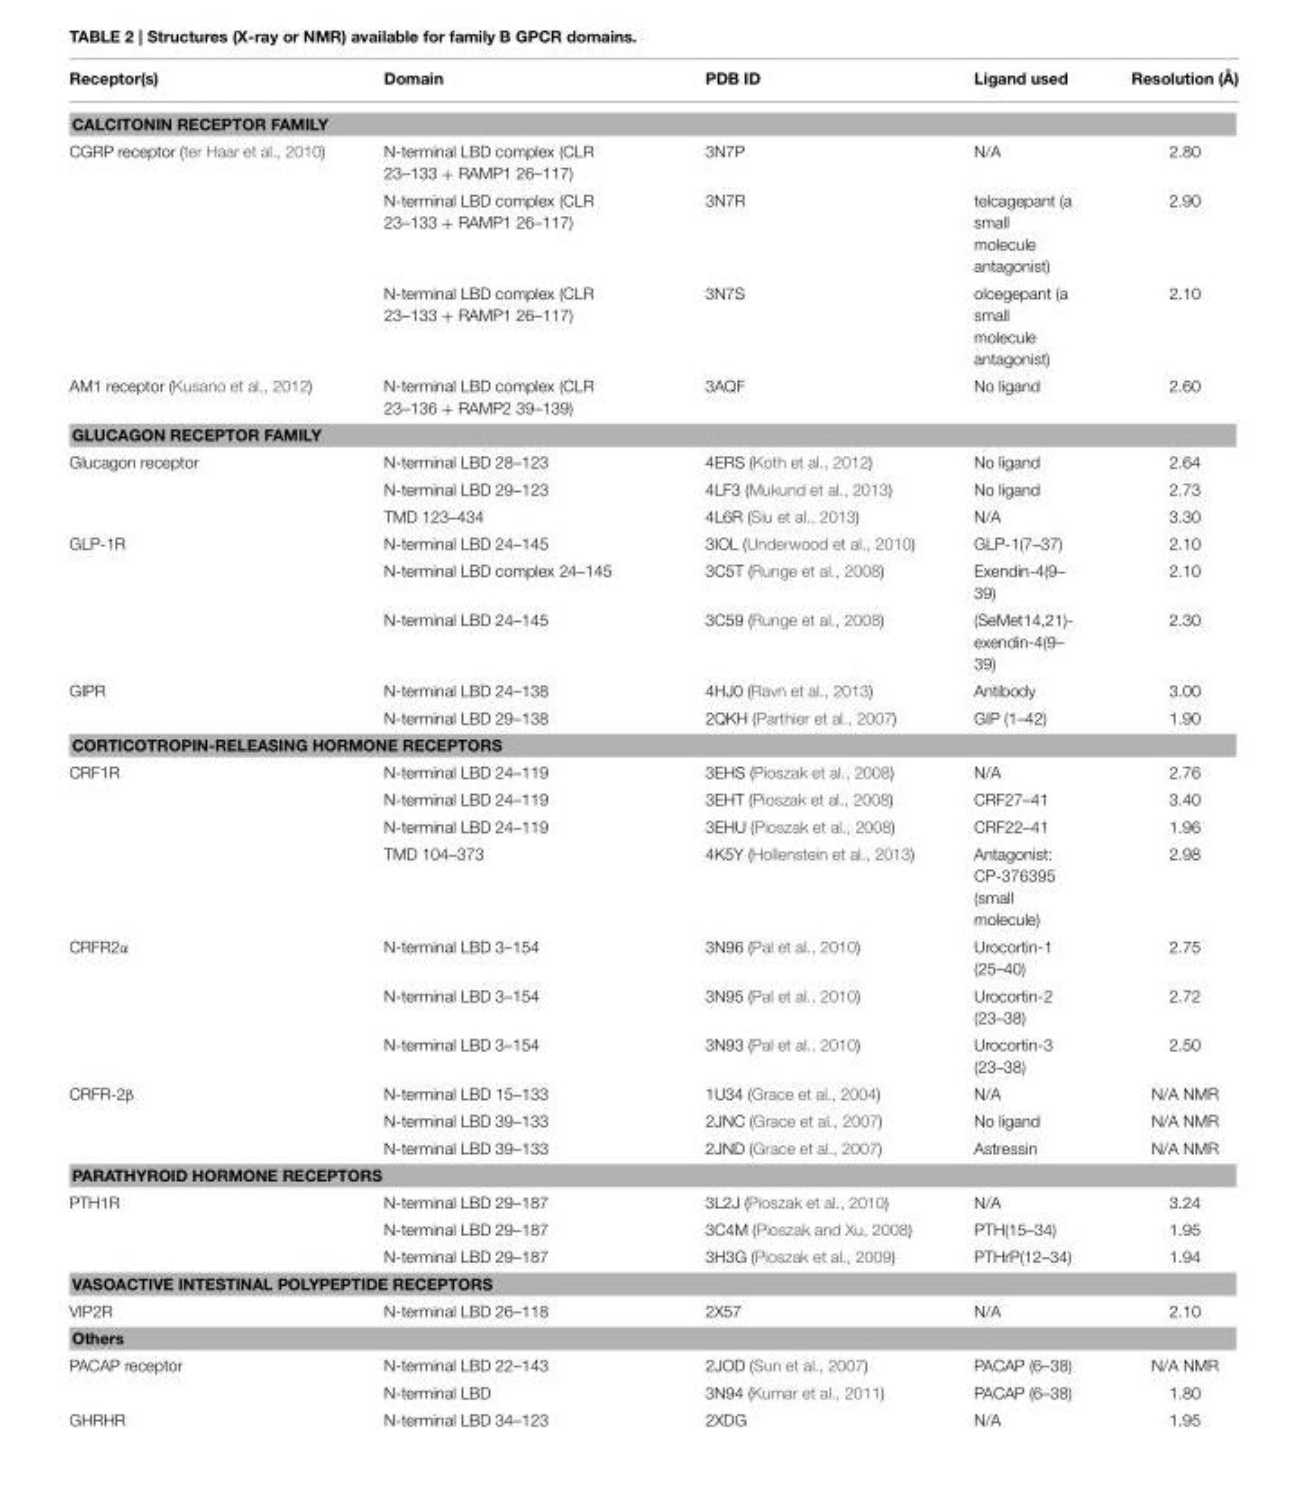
<table><thead><tr><td>Receptor(s)</td><td>Domain</td><td>PDB ID</td><td>Ligand used</td><td>Resolution (Å)</td></tr></thead><tbody><tr><td colspan="5">CALCITONIN RECEPTOR FAMILY</td></tr><tr><td rowspan="3">CGRP receptor (ter Haar et al., 2010)</td><td>N-terminal LBD complex (CLR 23–133 + RAMP1 26–117)</td><td>3N7P</td><td>N/A</td><td>2.80</td></tr><tr><td>N-terminal LBD complex (CLR 23–133 + RAMP1 26–117)</td><td>3N7R</td><td>telcagepant (a small molecule antagonist)</td><td>2.90</td></tr><tr><td>N-terminal LBD complex (CLR 23–133 + RAMP1 26–117)</td><td>3N7S</td><td>olcegepant (a small molecule antagonist)</td><td>2.10</td></tr><tr><td>AM1 receptor (Kusano et al., 2012)</td><td>N-terminal LBD complex (CLR 23–136 + RAMP2 39–139)</td><td>3AQF</td><td>No ligand</td><td>2.60</td></tr><tr><td colspan="5">GLUCAGON RECEPTOR FAMILY</td></tr><tr><td rowspan="3">Glucagon receptor</td><td>N-terminal LBD 28–123</td><td>4ERS (Koth et al., 2012)</td><td>No ligand</td><td>2.64</td></tr><tr><td>N-terminal LBD 29–123</td><td>4LF3 (Mukund et al., 2013)</td><td>No ligand</td><td>2.73</td></tr><tr><td>TMD 123–434</td><td>4L6R (Siu et al., 2013)</td><td>N/A</td><td>3.30</td></tr><tr><td rowspan="3">GLP-1R</td><td>N-terminal LBD 24–145</td><td>3IOL (Underwood et al., 2010)</td><td>GLP-1(7–37)</td><td>2.10</td></tr><tr><td>N-terminal LBD complex 24–145</td><td>3C5T (Runge et al., 2008)</td><td>Exendin-4(9– 39)</td><td>2.10</td></tr><tr><td>N-terminal LBD 24–145</td><td>3C59 (Runge et al., 2008)</td><td>(SeMet14,21)- exendin-4(9– 39)</td><td>2.30</td></tr><tr><td rowspan="2">GIPR</td><td>N-terminal LBD 24–138</td><td>4HJ0 (Ravn et al., 2013)</td><td>Antibody</td><td>3.00</td></tr><tr><td>N-terminal LBD 29–138</td><td>2QKH (Parthier et al., 2007)</td><td>GIP (1–42)</td><td>1.90</td></tr><tr><td colspan="5">CORTICOTROPIN-RELEASING HORMONE RECEPTORS</td></tr><tr><td rowspan="4">CRF1R</td><td>N-terminal LBD 24–119</td><td>3EHS (Pioszak et al., 2008)</td><td>N/A</td><td>2.76</td></tr><tr><td>N-terminal LBD 24–119</td><td>3EHT (Pioszak et al., 2008)</td><td>CRF27–41</td><td>3.40</td></tr><tr><td>N-terminal LBD 24–119</td><td>3EHU (Pioszak et al., 2008)</td><td>CRF22–41</td><td>1.96</td></tr><tr><td>TMD 104–373</td><td>4K5Y (Hollenstein et al., 2013)</td><td>Antagonist: CP-376395 (small molecule)</td><td>2.98</td></tr><tr><td rowspan="3">CRFR2α</td><td>N-terminal LBD 3–154</td><td>3N96 (Pal et al., 2010)</td><td>Urocortin-1 (25–40)</td><td>2.75</td></tr><tr><td>N-terminal LBD 3–154</td><td>3N95 (Pal et al., 2010)</td><td>Urocortin-2 (23–38)</td><td>2.72</td></tr><tr><td>N-terminal LBD 3–154</td><td>3N93 (Pal et al., 2010)</td><td>Urocortin-3 (23–38)</td><td>2.50</td></tr><tr><td rowspan="3">CRFR-2β</td><td>N-terminal LBD 15–133</td><td>1U34 (Grace et al., 2004)</td><td>N/A</td><td>N/A NMR</td></tr><tr><td>N-terminal LBD 39–133</td><td>2JNC (Grace et al., 2007)</td><td>No ligand</td><td>N/A NMR</td></tr><tr><td>N-terminal LBD 39–133</td><td>2JND (Grace et al., 2007)</td><td>Astressin</td><td>N/A NMR</td></tr><tr><td colspan="5">PARATHYROID HORMONE RECEPTORS</td></tr><tr><td rowspan="3">PTH1R</td><td>N-terminal LBD 29–187</td><td>3L2J (Pioszak et al., 2010)</td><td>N/A</td><td>3.24</td></tr><tr><td>N-terminal LBD 29–187</td><td>3C4M (Pioszak and Xu, 2008)</td><td>PTH(15–34)</td><td>1.95</td></tr><tr><td>N-terminal LBD 29–187</td><td>3H3G (Pioszak et al., 2009)</td><td>PTHrP(12–34)</td><td>1.94</td></tr><tr><td colspan="5">VASOACTIVE INTESTINAL POLYPEPTIDE RECEPTORS</td></tr><tr><td>VIP2R</td><td>N-terminal LBD 26–118</td><td>2X57</td><td>N/A</td><td>2.10</td></tr><tr><td colspan="5">Others</td></tr><tr><td rowspan="2">PACAP receptor</td><td>N-terminal LBD 22–143</td><td>2JOD (Sun et al., 2007)</td><td>PACAP (6–38)</td><td>N/A NMR</td></tr><tr><td>N-terminal LBD</td><td>3N94 (Kumar et al., 2011)</td><td>PACAP (6–38)</td><td>1.80</td></tr><tr><td>GHRHR</td><td>N-terminal LBD 34–123</td><td>2XDG</td><td>N/A</td><td>1.95</td></tr></tbody></table>